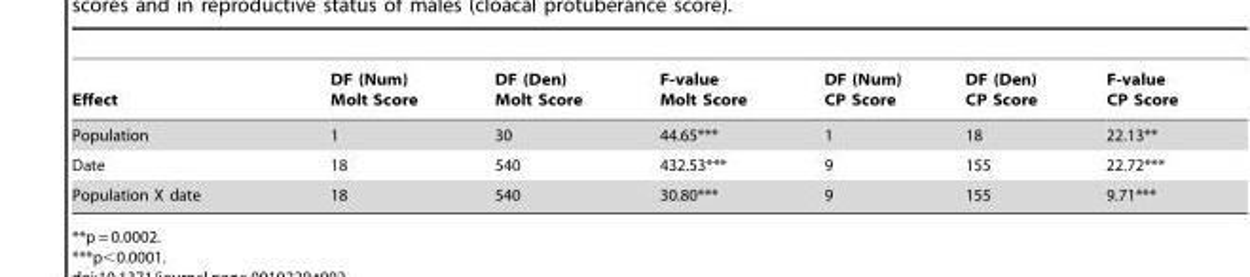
<table><thead><tr><td>Effect</td><td>DF (Num) Molt Score</td><td>DF (Den) Molt Score</td><td>F-value Molt Score</td><td>DF (Num) CP Score</td><td>DF (Den) CP Score</td><td>F-value CP Score</td></tr></thead><tbody><tr><td>Population</td><td>1</td><td>30</td><td>44.65***</td><td>1</td><td>18</td><td>22.13**</td></tr><tr><td>Date</td><td>18</td><td>540</td><td>432.53***</td><td>9</td><td>155</td><td>22.72***</td></tr><tr><td>Population X date</td><td>18</td><td>540</td><td>30.80***</td><td>9</td><td>155</td><td>9.71***</td></tr></tbody></table>